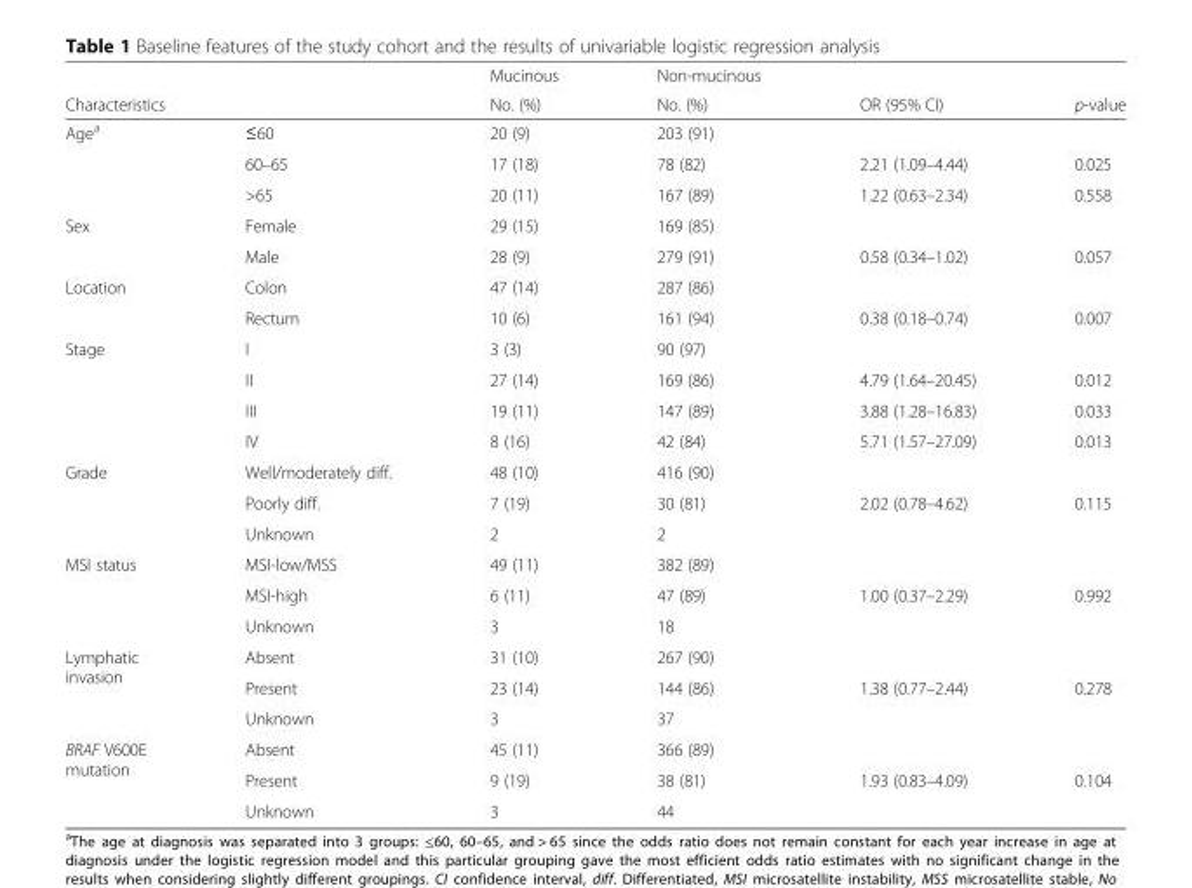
<table><thead><tr><td></td><td></td><td rowspan="2">Mucinous No. (%)</td><td rowspan="2">Non-mucinous No. (%)</td><td rowspan="2">OR (95% CI)</td><td rowspan="2">p-value</td></tr><tr><td colspan="2">Characteristics</td></tr></thead><tbody><tr><td rowspan="3">Age<sup>a</sup></td><td>≤60</td><td>20 (9)</td><td>203 (91)</td><td></td><td></td></tr><tr><td>60–65</td><td>17 (18)</td><td>78 (82)</td><td>2.21 (1.09–4.44)</td><td>0.025</td></tr><tr><td>&gt;65</td><td>20 (11)</td><td>167 (89)</td><td>1.22 (0.63–2.34)</td><td>0.558</td></tr><tr><td rowspan="2">Sex</td><td>Female</td><td>29 (15)</td><td>169 (85)</td><td></td><td></td></tr><tr><td>Male</td><td>28 (9)</td><td>279 (91)</td><td>0.58 (0.34–1.02)</td><td>0.057</td></tr><tr><td rowspan="2">Location</td><td>Colon</td><td>47 (14)</td><td>287 (86)</td><td></td><td></td></tr><tr><td>Rectum</td><td>10 (6)</td><td>161 (94)</td><td>0.38 (0.18–0.74)</td><td>0.007</td></tr><tr><td rowspan="4">Stage</td><td>I</td><td>3 (3)</td><td>90 (97)</td><td></td><td></td></tr><tr><td>II</td><td>27 (14)</td><td>169 (86)</td><td>4.79 (1.64–20.45)</td><td>0.012</td></tr><tr><td>III</td><td>19 (11)</td><td>147 (89)</td><td>3.88 (1.28–16.83)</td><td>0.033</td></tr><tr><td>IV</td><td>8 (16)</td><td>42 (84)</td><td>5.71 (1.57–27.09)</td><td>0.013</td></tr><tr><td rowspan="3">Grade</td><td>Well/moderately diff.</td><td>48 (10)</td><td>416 (90)</td><td></td><td></td></tr><tr><td>Poorly diff.</td><td>7 (19)</td><td>30 (81)</td><td>2.02 (0.78–4.62)</td><td>0.115</td></tr><tr><td>Unknown</td><td>2</td><td>2</td><td></td><td></td></tr><tr><td rowspan="3">MSI status</td><td>MSI-low/MSS</td><td>49 (11)</td><td>382 (89)</td><td></td><td></td></tr><tr><td>MSI-high</td><td>6 (11)</td><td>47 (89)</td><td>1.00 (0.37–2.29)</td><td>0.992</td></tr><tr><td>Unknown</td><td>3</td><td>18</td><td></td><td></td></tr><tr><td rowspan="3">Lymphatic invasion</td><td>Absent</td><td>31 (10)</td><td>267 (90)</td><td></td><td></td></tr><tr><td>Present</td><td>23 (14)</td><td>144 (86)</td><td>1.38 (0.77–2.44)</td><td>0.278</td></tr><tr><td>Unknown</td><td>3</td><td>37</td><td></td><td></td></tr><tr><td rowspan="3">BRAF V600E mutation</td><td>Absent</td><td>45 (11)</td><td>366 (89)</td><td></td><td></td></tr><tr><td>Present</td><td>9 (19)</td><td>38 (81)</td><td>1.93 (0.83–4.09)</td><td>0.104</td></tr><tr><td>Unknown</td><td>3</td><td>44</td><td></td><td></td></tr></tbody></table>